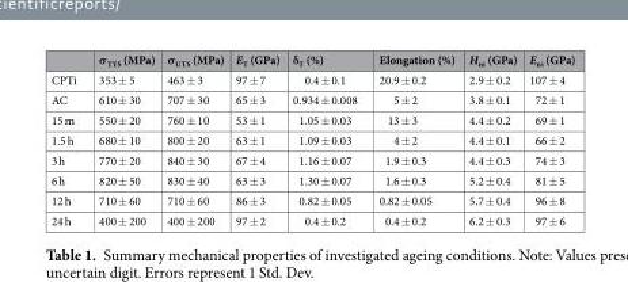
<table><thead><tr><td></td><td>σ<sub>TYS</sub> (MPa)</td><td>σ<sub>UTS</sub> (MPa)</td><td>E<sub>T</sub> (GPa)</td><td>δ<sub>T</sub> (%)</td><td>Elongation (%)</td><td>H<sub>ni</sub> (GPa)</td><td>E<sub>ni</sub> (GPa)</td></tr></thead><tbody><tr><td>CPTi</td><td>353 ± 5</td><td>463 ± 3</td><td>97 ± 7</td><td>0.4 ± 0.1</td><td>20.9 ± 0.2</td><td>2.9 ± 0.2</td><td>107 ± 4</td></tr><tr><td>AC</td><td>610 ± 30</td><td>707 ± 30</td><td>65 ± 3</td><td>0.934 ± 0.008</td><td>5 ± 2</td><td>3.8 ± 0.1</td><td>72 ± 1</td></tr><tr><td>15 m</td><td>550 ± 20</td><td>760 ± 10</td><td>53 ± 1</td><td>1.05 ± 0.03</td><td>13 ± 3</td><td>4.4 ± 0.2</td><td>69 ± 1</td></tr><tr><td>1.5 h</td><td>680 ± 10</td><td>800 ± 20</td><td>63 ± 1</td><td>1.09 ± 0.03</td><td>4 ± 2</td><td>4.4 ± 0.1</td><td>66 ± 2</td></tr><tr><td>3 h</td><td>770 ± 20</td><td>840 ± 30</td><td>67 ± 4</td><td>1.16 ± 0.07</td><td>1.9 ± 0.3</td><td>4.4 ± 0.3</td><td>74 ± 3</td></tr><tr><td>6 h</td><td>820 ± 50</td><td>830 ± 40</td><td>63 ± 3</td><td>1.30 ± 0.07</td><td>1.6 ± 0.3</td><td>5.2 ± 0.4</td><td>81 ± 5</td></tr><tr><td>12 h</td><td>710 ± 60</td><td>710 ± 60</td><td>86 ± 3</td><td>0.82 ± 0.05</td><td>0.82 ± 0.05</td><td>5.7 ± 0.4</td><td>96 ± 8</td></tr><tr><td>24 h</td><td>400 ± 200</td><td>400 ± 200</td><td>97 ± 2</td><td>0.4 ± 0.2</td><td>0.4 ± 0.2</td><td>6.2 ± 0.3</td><td>97 ± 6</td></tr></tbody></table>